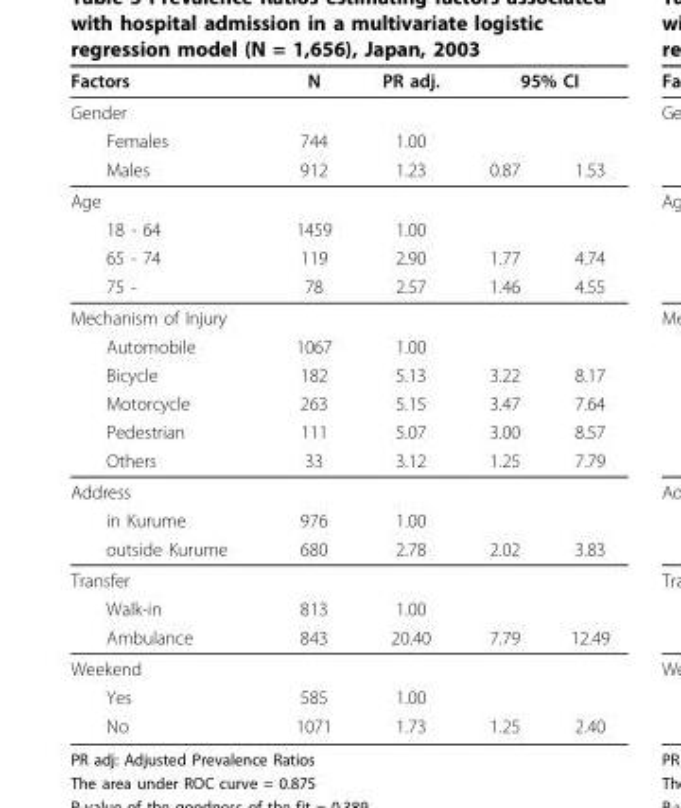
<table><thead><tr><td rowspan="2">Factors Gender</td><td rowspan="2">N</td><td rowspan="2">PR adj.</td><td colspan="2">95% CI</td></tr><tr><td></td><td></td></tr></thead><tbody><tr><td>Females</td><td>744</td><td>1.00</td><td></td><td></td></tr><tr><td>Males</td><td>912</td><td>1.23</td><td>0.87</td><td>1.53</td></tr><tr><td colspan="5">Age</td></tr><tr><td>18 - 64</td><td>1459</td><td>1.00</td><td></td><td></td></tr><tr><td>65 - 74</td><td>119</td><td>2.90</td><td>1.77</td><td>4.74</td></tr><tr><td>75 -</td><td>78</td><td>2.57</td><td>1.46</td><td>4.55</td></tr><tr><td colspan="5">Mechanism of Injury</td></tr><tr><td>Automobile</td><td>1067</td><td>1.00</td><td></td><td></td></tr><tr><td>Bicycle</td><td>182</td><td>5.13</td><td>3.22</td><td>8.17</td></tr><tr><td>Motorcycle</td><td>263</td><td>5.15</td><td>3.47</td><td>7.64</td></tr><tr><td>Pedestrian</td><td>111</td><td>5.07</td><td>3.00</td><td>8.57</td></tr><tr><td>Others</td><td>33</td><td>3.12</td><td>1.25</td><td>7.79</td></tr><tr><td colspan="5">Address</td></tr><tr><td>in Kurume</td><td>976</td><td>1.00</td><td></td><td></td></tr><tr><td>outside Kurume</td><td>680</td><td>2.78</td><td>2.02</td><td>3.83</td></tr><tr><td colspan="5">Transfer</td></tr><tr><td>Walk-in</td><td>813</td><td>1.00</td><td></td><td></td></tr><tr><td>Ambulance</td><td>843</td><td>20.40</td><td>7.79</td><td>12.49</td></tr><tr><td colspan="5">Weekend</td></tr><tr><td>Yes</td><td>585</td><td>1.00</td><td></td><td></td></tr><tr><td>No</td><td>1071</td><td>1.73</td><td>1.25</td><td>2.40</td></tr></tbody></table>